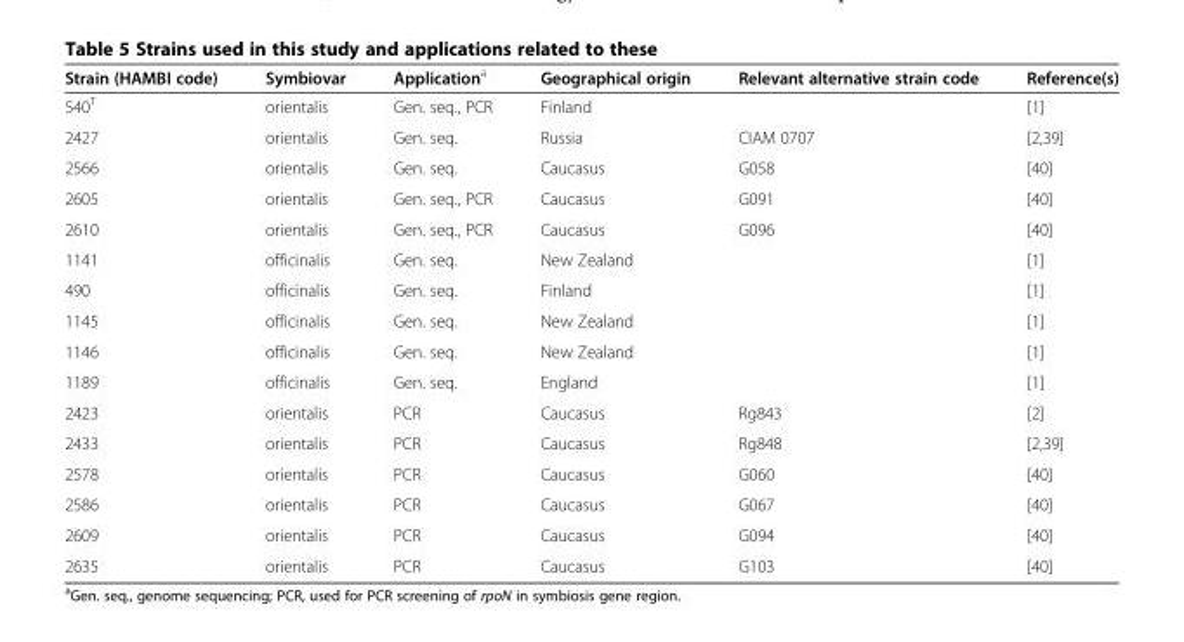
<table><thead><tr><td>Strain (HAMBI code)</td><td>Symbiovar</td><td>Application<sup>a</sup></td><td>Geographical origin</td><td>Relevant alternative strain code</td><td>Reference(s)</td></tr></thead><tbody><tr><td>540<sup>T</sup></td><td>orientalis</td><td>Gen. seq., PCR</td><td>Finland</td><td></td><td>[1]</td></tr><tr><td>2427</td><td>orientalis</td><td>Gen. seq.</td><td>Russia</td><td>CIAM 0707</td><td>[2,39]</td></tr><tr><td>2566</td><td>orientalis</td><td>Gen. seq.</td><td>Caucasus</td><td>G058</td><td>[40]</td></tr><tr><td>2605</td><td>orientalis</td><td>Gen. seq., PCR</td><td>Caucasus</td><td>G091</td><td>[40]</td></tr><tr><td>2610</td><td>orientalis</td><td>Gen. seq., PCR</td><td>Caucasus</td><td>G096</td><td>[40]</td></tr><tr><td>1141</td><td>officinalis</td><td>Gen. seq.</td><td>New Zealand</td><td></td><td>[1]</td></tr><tr><td>490</td><td>officinalis</td><td>Gen. seq.</td><td>Finland</td><td></td><td>[1]</td></tr><tr><td>1145</td><td>officinalis</td><td>Gen. seq.</td><td>New Zealand</td><td></td><td>[1]</td></tr><tr><td>1146</td><td>officinalis</td><td>Gen. seq.</td><td>New Zealand</td><td></td><td>[1]</td></tr><tr><td>1189</td><td>officinalis</td><td>Gen. seq.</td><td>England</td><td></td><td>[1]</td></tr><tr><td>2423</td><td>orientalis</td><td>PCR</td><td>Caucasus</td><td>Rg843</td><td>[2]</td></tr><tr><td>2433</td><td>orientalis</td><td>PCR</td><td>Caucasus</td><td>Rg848</td><td>[2,39]</td></tr><tr><td>2578</td><td>orientalis</td><td>PCR</td><td>Caucasus</td><td>G060</td><td>[40]</td></tr><tr><td>2586</td><td>orientalis</td><td>PCR</td><td>Caucasus</td><td>G067</td><td>[40]</td></tr><tr><td>2609</td><td>orientalis</td><td>PCR</td><td>Caucasus</td><td>G094</td><td>[40]</td></tr><tr><td>2635</td><td>orientalis</td><td>PCR</td><td>Caucasus</td><td>G103</td><td>[40]</td></tr></tbody></table>